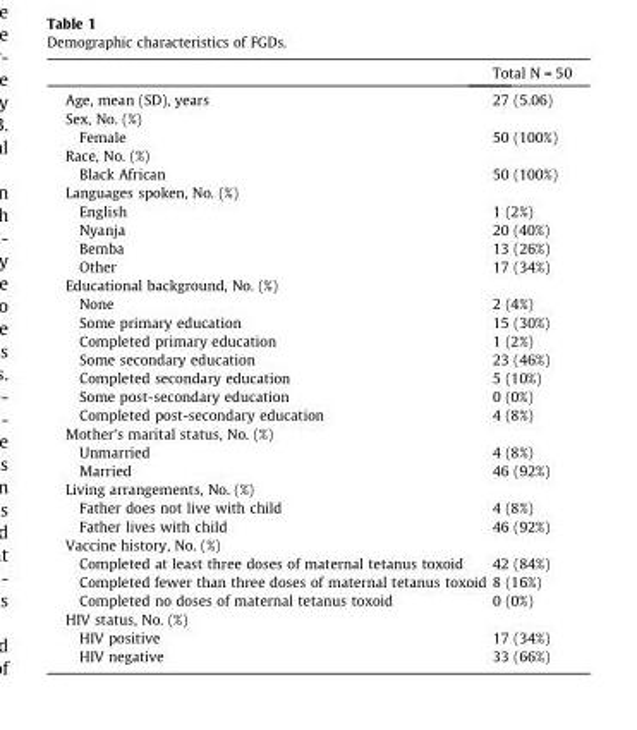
<table><thead><tr><td></td><td>Total N = 50</td></tr></thead><tbody><tr><td>Age, mean (SD), years</td><td>27 (5.06)</td></tr><tr><td colspan="2">Sex, No. (%)</td></tr><tr><td>Female</td><td>50 (100%)</td></tr><tr><td colspan="2">Race, No. (%)</td></tr><tr><td>Black African</td><td>50 (100%)</td></tr><tr><td colspan="2">Languages spoken, No. (%)</td></tr><tr><td>English</td><td>1 (2%)</td></tr><tr><td>Nyanja</td><td>20 (40%)</td></tr><tr><td>Bemba</td><td>13 (26%)</td></tr><tr><td>Other</td><td>17 (34%)</td></tr><tr><td colspan="2">Educational background, No. (%)</td></tr><tr><td>None</td><td>2 (4%)</td></tr><tr><td>Some primary education</td><td>15 (30%)</td></tr><tr><td>Completed primary education</td><td>1 (2%)</td></tr><tr><td>Some secondary education</td><td>23 (46%)</td></tr><tr><td>Completed secondary education</td><td>5 (10%)</td></tr><tr><td>Some post-secondary education</td><td>0 (0%)</td></tr><tr><td>Completed post-secondary education</td><td>4 (8%)</td></tr><tr><td colspan="2">Mother’s marital status, No. (%)</td></tr><tr><td>Unmarried</td><td>4 (8%)</td></tr><tr><td>Married</td><td>46 (92%)</td></tr><tr><td colspan="2">Living arrangements, No. (%)</td></tr><tr><td>Father does not live with child</td><td>4 (8%)</td></tr><tr><td>Father lives with child</td><td>46 (92%)</td></tr><tr><td colspan="2">Vaccine history, No. (%)</td></tr><tr><td>Completed at least three doses of maternal tetanus toxoid</td><td>42 (84%)</td></tr><tr><td>Completed fewer than three doses of maternal tetanus toxoid</td><td>8 (16%)</td></tr><tr><td>Completed no doses of maternal tetanus toxoid</td><td>0 (0%)</td></tr><tr><td colspan="2">HIV status, No. (%)</td></tr><tr><td>HIV positive</td><td>17 (34%)</td></tr><tr><td>HIV negative</td><td>33 (66%)</td></tr></tbody></table>